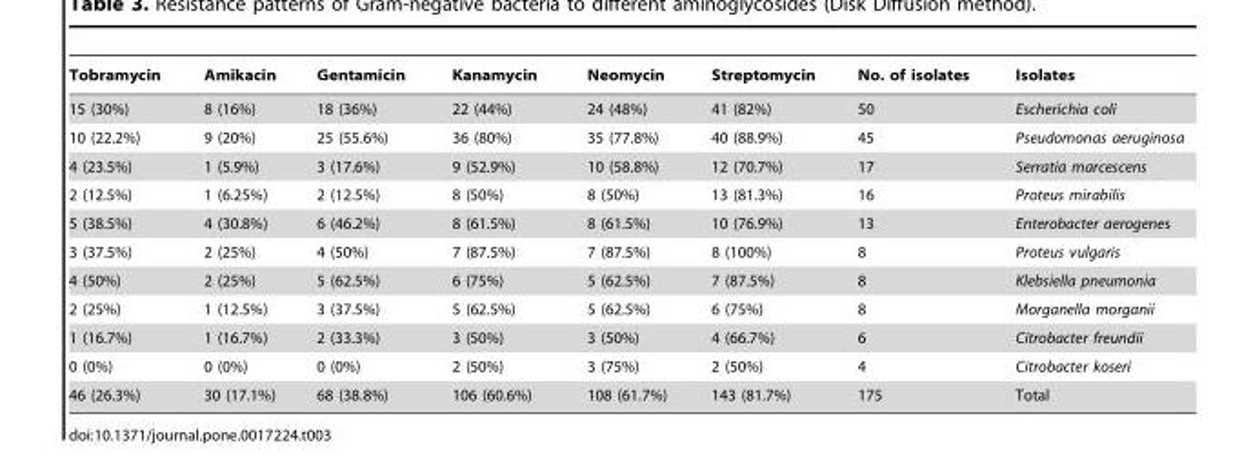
<table><thead><tr><td>Tobramycin</td><td>Amikacin</td><td>Gentamicin</td><td>Kanamycin</td><td>Neomycin</td><td>Streptomycin</td><td>No. of isolates</td><td>Isolates</td></tr></thead><tbody><tr><td>15 (30%)</td><td>8 (16%)</td><td>18 (36%)</td><td>22 (44%)</td><td>24 (48%)</td><td>41 (82%)</td><td>50</td><td>Escherichia coli</td></tr><tr><td>10 (22.2%)</td><td>9 (20%)</td><td>25 (55.6%)</td><td>36 (80%)</td><td>35 (77.8%)</td><td>40 (88.9%)</td><td>45</td><td>Pseudomonas aeruginosa</td></tr><tr><td>4 (23.5%)</td><td>1 (5.9%)</td><td>3 (17.6%)</td><td>9 (52.9%)</td><td>10 (58.8%)</td><td>12 (70.7%)</td><td>17</td><td>Serratia marcescens</td></tr><tr><td>2 (12.5%)</td><td>1 (6.25%)</td><td>2 (12.5%)</td><td>8 (50%)</td><td>8 (50%)</td><td>13 (81.3%)</td><td>16</td><td>Proteus mirabilis</td></tr><tr><td>5 (38.5%)</td><td>4 (30.8%)</td><td>6 (46.2%)</td><td>8 (61.5%)</td><td>8 (61.5%)</td><td>10 (76.9%)</td><td>13</td><td>Enterobacter aerogenes</td></tr><tr><td>3 (37.5%)</td><td>2 (25%)</td><td>4 (50%)</td><td>7 (87.5%)</td><td>7 (87.5%)</td><td>8 (100%)</td><td>8</td><td>Proteus vulgaris</td></tr><tr><td>4 (50%)</td><td>2 (25%)</td><td>5 (62.5%)</td><td>6 (75%)</td><td>5 (62.5%)</td><td>7 (87.5%)</td><td>8</td><td>Klebsiella pneumonia</td></tr><tr><td>2 (25%)</td><td>1 (12.5%)</td><td>3 (37.5%)</td><td>5 (62.5%)</td><td>5 (62.5%)</td><td>6 (75%)</td><td>8</td><td>Morganella morganii</td></tr><tr><td>1 (16.7%)</td><td>1 (16.7%)</td><td>2 (33.3%)</td><td>3 (50%)</td><td>3 (50%)</td><td>4 (66.7%)</td><td>6</td><td>Citrobacter freundii</td></tr><tr><td>0 (0%)</td><td>0 (0%)</td><td>0 (0%)</td><td>2 (50%)</td><td>3 (75%)</td><td>2 (50%)</td><td>4</td><td>Citrobacter koseri</td></tr><tr><td>46 (26.3%)</td><td>30 (17.1%)</td><td>68 (38.8%)</td><td>106 (60.6%)</td><td>108 (61.7%)</td><td>143 (81.7%)</td><td>175</td><td>Total</td></tr></tbody></table>